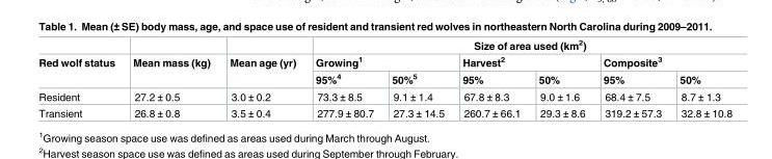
<table><thead><tr><td rowspan="3">Red wolf status</td><td rowspan="3">Mean mass (kg)</td><td rowspan="3">Mean age (yr)</td><td colspan="6">Size of area used (km<sup>2</sup>)</td></tr><tr><td colspan="2">Growing<sup>1</sup></td><td colspan="2">Harvest<sup>2</sup></td><td colspan="2">Composite<sup>3</sup></td></tr><tr><td>95%<sup>4</sup></td><td>50%<sup>5</sup></td><td>95%</td><td>50%</td><td>95%</td><td>50%</td></tr></thead><tbody><tr><td>Resident</td><td>27.2 ± 0.5</td><td>3.0 ± 0.2</td><td>73.3 ± 8.5</td><td>9.1 ± 1.4</td><td>67.8 ± 8.3</td><td>9.0 ± 1.6</td><td>68.4 ± 7.5</td><td>8.7 ± 1.3</td></tr><tr><td>Transient</td><td>26.8 ± 0.8</td><td>3.5 ± 0.4</td><td>277.9 ± 80.7</td><td>27.3 ± 14.5</td><td>260.7 ± 66.1</td><td>29.3 ± 8.6</td><td>319.2 ± 57.3</td><td>32.8 ± 10.8</td></tr></tbody></table>